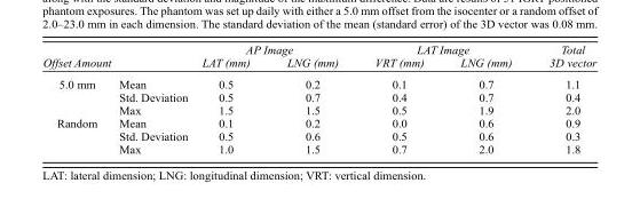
<table><thead><tr><td rowspan="2">Offset Amount</td><td rowspan="2"></td><td colspan="2">AP Image</td><td colspan="2">LAT Image</td><td rowspan="2">Total 3D vector</td></tr><tr><td>LAT (mm)</td><td>LNG (mm)</td><td>VRT (mm)</td><td>LNG (mm)</td></tr></thead><tbody><tr><td rowspan="3">5.0 mm</td><td>Mean</td><td>0.5</td><td>0.2</td><td>0.1</td><td>0.7</td><td>1.1</td></tr><tr><td>Std. Deviation</td><td>0.5</td><td>0.7</td><td>0.4</td><td>0.7</td><td>0.4</td></tr><tr><td>Max</td><td>1.5</td><td>1.5</td><td>0.5</td><td>1.9</td><td>2.0</td></tr><tr><td rowspan="3">Random</td><td>Mean</td><td>0.1</td><td>0.2</td><td>0.0</td><td>0.6</td><td>0.9</td></tr><tr><td>Std. Deviation</td><td>0.5</td><td>0.6</td><td>0.5</td><td>0.6</td><td>0.3</td></tr><tr><td>Max</td><td>1.0</td><td>1.5</td><td>0.7</td><td>2.0</td><td>1.8</td></tr></tbody></table>